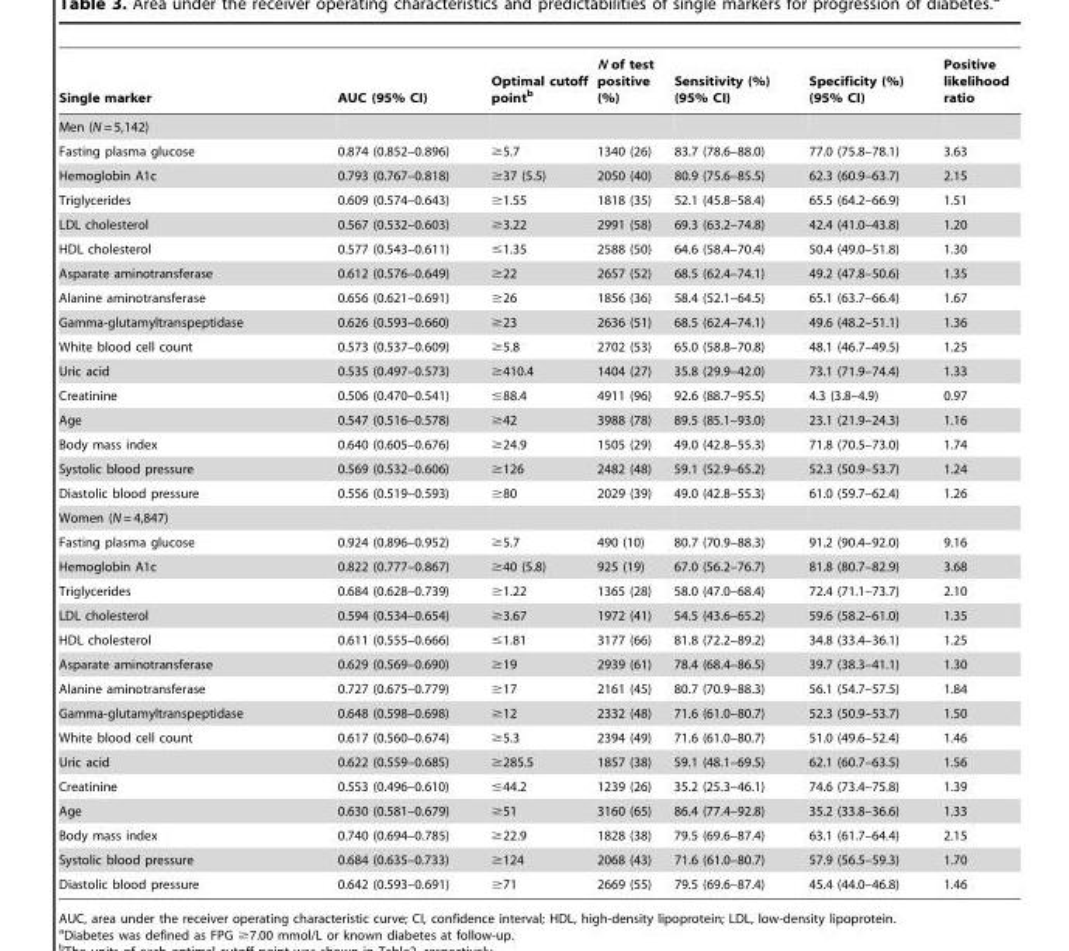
<table><thead><tr><td>Single marker</td><td>AUC (95% CI)</td><td>Optimal cutoff point<sup>b</sup></td><td>N of test positive (%)</td><td>Sensitivity (%) (95% CI)</td><td>Specificity (%) (95% CI)</td><td>Positive likelihood ratio</td></tr></thead><tbody><tr><td colspan="7">Men (N = 5,142)</td></tr><tr><td>Fasting plasma glucose</td><td>0.874 (0.852–0.896)</td><td>≥5.7</td><td>1340 (26)</td><td>83.7 (78.6–88.0)</td><td>77.0 (75.8–78.1)</td><td>3.63</td></tr><tr><td>Hemoglobin A1c</td><td>0.793 (0.767–0.818)</td><td>≥37 (5.5)</td><td>2050 (40)</td><td>80.9 (75.6–85.5)</td><td>62.3 (60.9–63.7)</td><td>2.15</td></tr><tr><td>Triglycerides</td><td>0.609 (0.574–0.643)</td><td>≥1.55</td><td>1818 (35)</td><td>52.1 (45.8–58.4)</td><td>65.5 (64.2–66.9)</td><td>1.51</td></tr><tr><td>LDL cholesterol</td><td>0.567 (0.532–0.603)</td><td>≥3.22</td><td>2991 (58)</td><td>69.3 (63.2–74.8)</td><td>42.4 (41.0–43.8)</td><td>1.20</td></tr><tr><td>HDL cholesterol</td><td>0.577 (0.543–0.611)</td><td>≤1.35</td><td>2588 (50)</td><td>64.6 (58.4–70.4)</td><td>50.4 (49.0–51.8)</td><td>1.30</td></tr><tr><td>Asparate aminotransferase</td><td>0.612 (0.576–0.649)</td><td>≥22</td><td>2657 (52)</td><td>68.5 (62.4–74.1)</td><td>49.2 (47.8–50.6)</td><td>1.35</td></tr><tr><td>Alanine aminotransferase</td><td>0.656 (0.621–0.691)</td><td>≥26</td><td>1856 (36)</td><td>58.4 (52.1–64.5)</td><td>65.1 (63.7–66.4)</td><td>1.67</td></tr><tr><td>Gamma-glutamyltranspeptidase</td><td>0.626 (0.593–0.660)</td><td>≥23</td><td>2636 (51)</td><td>68.5 (62.4–74.1)</td><td>49.6 (48.2–51.1)</td><td>1.36</td></tr><tr><td>White blood cell count</td><td>0.573 (0.537–0.609)</td><td>≥5.8</td><td>2702 (53)</td><td>65.0 (58.8–70.8)</td><td>48.1 (46.7–49.5)</td><td>1.25</td></tr><tr><td>Uric acid</td><td>0.535 (0.497–0.573)</td><td>≥410.4</td><td>1404 (27)</td><td>35.8 (29.9–42.0)</td><td>73.1 (71.9–74.4)</td><td>1.33</td></tr><tr><td>Creatinine</td><td>0.506 (0.470–0.541)</td><td>≤88.4</td><td>4911 (96)</td><td>92.6 (88.7–95.5)</td><td>4.3 (3.8–4.9)</td><td>0.97</td></tr><tr><td>Age</td><td>0.547 (0.516–0.578)</td><td>≥42</td><td>3988 (78)</td><td>89.5 (85.1–93.0)</td><td>23.1 (21.9–24.3)</td><td>1.16</td></tr><tr><td>Body mass index</td><td>0.640 (0.605–0.676)</td><td>≥24.9</td><td>1505 (29)</td><td>49.0 (42.8–55.3)</td><td>71.8 (70.5–73.0)</td><td>1.74</td></tr><tr><td>Systolic blood pressure</td><td>0.569 (0.532–0.606)</td><td>≥126</td><td>2482 (48)</td><td>59.1 (52.9–65.2)</td><td>52.3 (50.9–53.7)</td><td>1.24</td></tr><tr><td>Diastolic blood pressure</td><td>0.556 (0.519–0.593)</td><td>≥80</td><td>2029 (39)</td><td>49.0 (42.8–55.3)</td><td>61.0 (59.7–62.4)</td><td>1.26</td></tr><tr><td colspan="7">Women (N = 4,847)</td></tr><tr><td>Fasting plasma glucose</td><td>0.924 (0.896–0.952)</td><td>≥5.7</td><td>490 (10)</td><td>80.7 (70.9–88.3)</td><td>91.2 (90.4–92.0)</td><td>9.16</td></tr><tr><td>Hemoglobin A1c</td><td>0.822 (0.777–0.867)</td><td>≥40 (5.8)</td><td>925 (19)</td><td>67.0 (56.2–76.7)</td><td>81.8 (80.7–82.9)</td><td>3.68</td></tr><tr><td>Triglycerides</td><td>0.684 (0.628–0.739)</td><td>≥1.22</td><td>1365 (28)</td><td>58.0 (47.0–68.4)</td><td>72.4 (71.1–73.7)</td><td>2.10</td></tr><tr><td>LDL cholesterol</td><td>0.594 (0.534–0.654)</td><td>≥3.67</td><td>1972 (41)</td><td>54.5 (43.6–65.2)</td><td>59.6 (58.2–61.0)</td><td>1.35</td></tr><tr><td>HDL cholesterol</td><td>0.611 (0.555–0.666)</td><td>≤1.81</td><td>3177 (66)</td><td>81.8 (72.2–89.2)</td><td>34.8 (33.4–36.1)</td><td>1.25</td></tr><tr><td>Asparate aminotransferase</td><td>0.629 (0.569–0.690)</td><td>≥19</td><td>2939 (61)</td><td>78.4 (68.4–86.5)</td><td>39.7 (38.3–41.1)</td><td>1.30</td></tr><tr><td>Alanine aminotransferase</td><td>0.727 (0.675–0.779)</td><td>≥17</td><td>2161 (45)</td><td>80.7 (70.9–88.3)</td><td>56.1 (54.7–57.5)</td><td>1.84</td></tr><tr><td>Gamma-glutamyltranspeptidase</td><td>0.648 (0.598–0.698)</td><td>≥12</td><td>2332 (48)</td><td>71.6 (61.0–80.7)</td><td>52.3 (50.9–53.7)</td><td>1.50</td></tr><tr><td>White blood cell count</td><td>0.617 (0.560–0.674)</td><td>≥5.3</td><td>2394 (49)</td><td>71.6 (61.0–80.7)</td><td>51.0 (49.6–52.4)</td><td>1.46</td></tr><tr><td>Uric acid</td><td>0.622 (0.559–0.685)</td><td>≥285.5</td><td>1857 (38)</td><td>59.1 (48.1–69.5)</td><td>62.1 (60.7–63.5)</td><td>1.56</td></tr><tr><td>Creatinine</td><td>0.553 (0.496–0.610)</td><td>≤44.2</td><td>1239 (26)</td><td>35.2 (25.3–46.1)</td><td>74.6 (73.4–75.8)</td><td>1.39</td></tr><tr><td>Age</td><td>0.630 (0.581–0.679)</td><td>≥51</td><td>3160 (65)</td><td>86.4 (77.4–92.8)</td><td>35.2 (33.8–36.6)</td><td>1.33</td></tr><tr><td>Body mass index</td><td>0.740 (0.694–0.785)</td><td>≥22.9</td><td>1828 (38)</td><td>79.5 (69.6–87.4)</td><td>63.1 (61.7–64.4)</td><td>2.15</td></tr><tr><td>Systolic blood pressure</td><td>0.684 (0.635–0.733)</td><td>≥124</td><td>2068 (43)</td><td>71.6 (61.0–80.7)</td><td>57.9 (56.5–59.3)</td><td>1.70</td></tr><tr><td>Diastolic blood pressure</td><td>0.642 (0.593–0.691)</td><td>≥71</td><td>2669 (55)</td><td>79.5 (69.6–87.4)</td><td>45.4 (44.0–46.8)</td><td>1.46</td></tr></tbody></table>